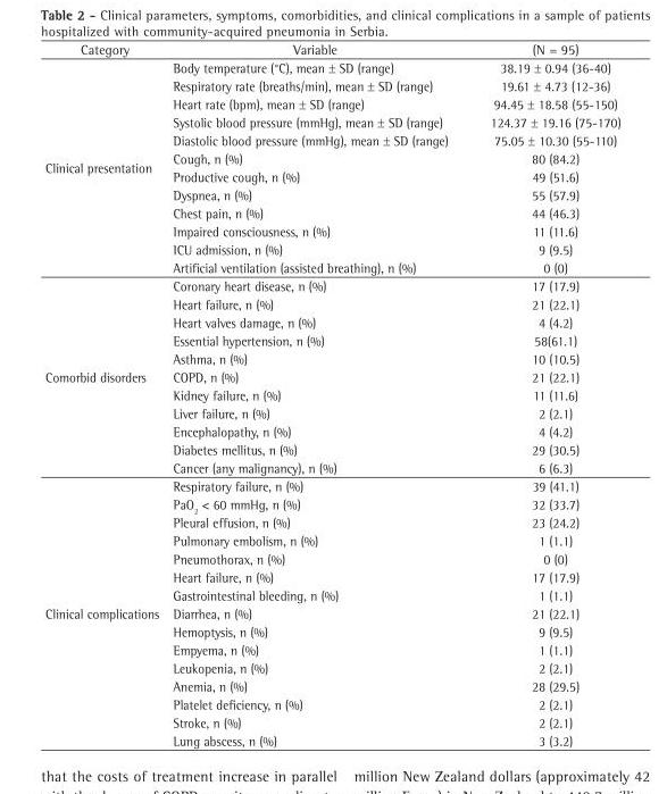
<table><thead><tr><td>Category</td><td>Variable</td><td>(N = 95)</td></tr></thead><tbody><tr><td rowspan="12">Clinical presentation</td><td>Body temperature (°C), mean ± SD (range)</td><td>38.19 ± 0.94 (36-40)</td></tr><tr><td>Respiratory rate (breaths/min), mean ± SD (range)</td><td>19.61 ± 4.73 (12-36)</td></tr><tr><td>Heart rate (bpm), mean ± SD (range)</td><td>94.45 ± 18.58 (55-150)</td></tr><tr><td>Systolic blood pressure (mmHg), mean ± SD (range)</td><td>124.37 ± 19.16 (75-170)</td></tr><tr><td>Diastolic blood pressure (mmHg), mean ± SD (range)</td><td>75.05 ± 10.30 (55-110)</td></tr><tr><td>Cough, n (%)</td><td>80 (84.2)</td></tr><tr><td>Productive cough, n (%)</td><td>49 (51.6)</td></tr><tr><td>Dyspnea, n (%)</td><td>55 (57.9)</td></tr><tr><td>Chest pain, n (%)</td><td>44 (46.3)</td></tr><tr><td>Impaired consciousness, n (%)</td><td>11 (11.6)</td></tr><tr><td>ICU admission, n (%)</td><td>9 (9.5)</td></tr><tr><td>Artificial ventilation (assisted breathing), n (%)</td><td>0 (0)</td></tr><tr><td rowspan="11">Comorbid disorders</td><td>Coronary heart disease, n (%)</td><td>17 (17.9)</td></tr><tr><td>Heart failure, n (%)</td><td>21 (22.1)</td></tr><tr><td>Heart valves damage, n (%)</td><td>4 (4.2)</td></tr><tr><td>Essential hypertension, n (%)</td><td>58(61.1)</td></tr><tr><td>Asthma, n (%)</td><td>10 (10.5)</td></tr><tr><td>COPD, n (%)</td><td>21 (22.1)</td></tr><tr><td>Kidney failure, n (%)</td><td>11 (11.6)</td></tr><tr><td>Liver failure, n (%)</td><td>2 (2.1)</td></tr><tr><td>Encephalopathy, n (%)</td><td>4 (4.2)</td></tr><tr><td>Diabetes mellitus, n (%)</td><td>29 (30.5)</td></tr><tr><td>Cancer (any malignancy), n (%)</td><td>6 (6.3)</td></tr><tr><td rowspan="15">Clinical complications</td><td>Respiratory failure, n (%)</td><td>39 (41.1)</td></tr><tr><td>PaO<sub>2</sub> &lt; 60 mmHg, n (%)</td><td>32 (33.7)</td></tr><tr><td>Pleural effusion, n (%)</td><td>23 (24.2)</td></tr><tr><td>Pulmonary embolism, n (%)</td><td>1 (1.1)</td></tr><tr><td>Pneumothorax, n (%)</td><td>0 (0)</td></tr><tr><td>Heart failure, n (%)</td><td>17 (17.9)</td></tr><tr><td>Gastrointestinal bleeding, n (%)</td><td>1 (1.1)</td></tr><tr><td>Diarrhea, n (%)</td><td>21 (22.1)</td></tr><tr><td>Hemoptysis, n (%)</td><td>9 (9.5)</td></tr><tr><td>Empyema, n (%)</td><td>1 (1.1)</td></tr><tr><td>Leukopenia, n (%)</td><td>2 (2.1)</td></tr><tr><td>Anemia, n (%)</td><td>28 (29.5)</td></tr><tr><td>Platelet deficiency, n (%)</td><td>2 (2.1)</td></tr><tr><td>Stroke, n (%)</td><td>2 (2.1)</td></tr><tr><td>Lung abscess, n (%)</td><td>3 (3.2)</td></tr></tbody></table>